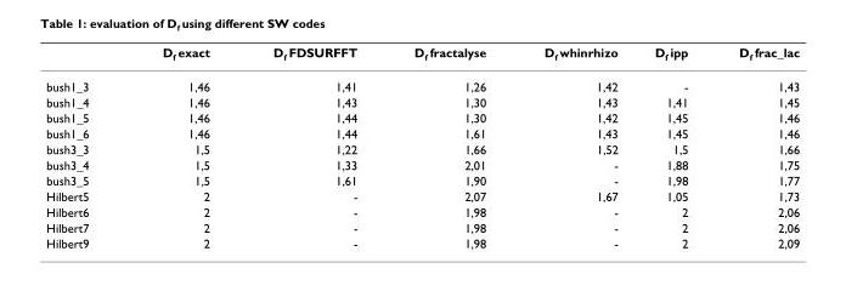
<table><thead><tr><td></td><td>D<sub>f</sub> exact</td><td>D<sub>f</sub> FDSURFFT</td><td>D<sub>f</sub> fractalyse</td><td>D<sub>f</sub> whinrhizo</td><td>D<sub>f</sub> ipp</td><td>D<sub>f</sub> frac_lac</td></tr></thead><tbody><tr><td>bush1_3</td><td>1,46</td><td>1,41</td><td>1,26</td><td>1,42</td><td>-</td><td>1,43</td></tr><tr><td>bush1_4</td><td>1,46</td><td>1,43</td><td>1,30</td><td>1,43</td><td>1,41</td><td>1,45</td></tr><tr><td>bush1_5</td><td>1,46</td><td>1,44</td><td>1,30</td><td>1,42</td><td>1,45</td><td>1,46</td></tr><tr><td>bush1_6</td><td>1,46</td><td>1,44</td><td>1,61</td><td>1,43</td><td>1,45</td><td>1,46</td></tr><tr><td>bush3_3</td><td>1,5</td><td>1,22</td><td>1,66</td><td>1,52</td><td>1,5</td><td>1,66</td></tr><tr><td>bush3_4</td><td>1,5</td><td>1,33</td><td>2,01</td><td>-</td><td>1,88</td><td>1,75</td></tr><tr><td>bush3_5</td><td>1,5</td><td>1,61</td><td>1,90</td><td>-</td><td>1,98</td><td>1,77</td></tr><tr><td>Hilbert5</td><td>2</td><td>-</td><td>2,07</td><td>1,67</td><td>1,05</td><td>1,73</td></tr><tr><td>Hilbert6</td><td>2</td><td>-</td><td>1,98</td><td>-</td><td>2</td><td>2,06</td></tr><tr><td>Hilbert7</td><td>2</td><td>-</td><td>1,98</td><td>-</td><td>2</td><td>2,06</td></tr><tr><td>Hilbert9</td><td>2</td><td>-</td><td>1,98</td><td>-</td><td>2</td><td>2,09</td></tr></tbody></table>